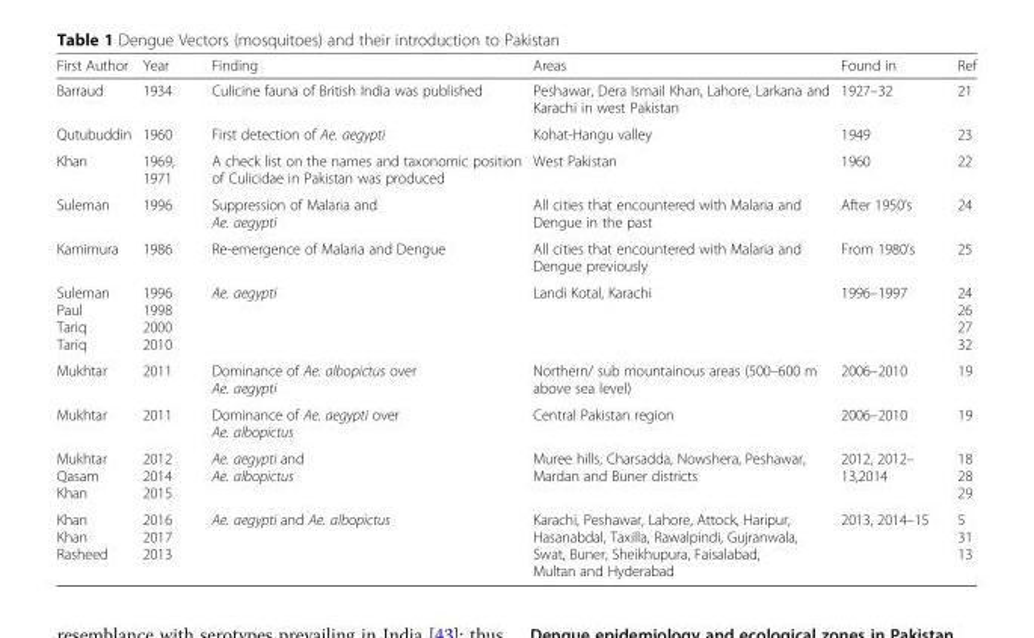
<table><thead><tr><td>First Author</td><td>Year</td><td>Finding</td><td>Areas</td><td>Found in</td><td>Ref</td></tr></thead><tbody><tr><td>Barraud</td><td>1934</td><td>Culicine fauna of British India was published</td><td>Peshawar, Dera Ismail Khan, Lahore, Larkana and Karachi in west Pakistan</td><td>1927–32</td><td>21</td></tr><tr><td>Qutubuddin</td><td>1960</td><td>First detection of Ae. aegypti</td><td>Kohat-Hangu valley</td><td>1949</td><td>23</td></tr><tr><td>Khan</td><td>1969, 1971</td><td>A check list on the names and taxonomic position of Culicidae in Pakistan was produced</td><td>West Pakistan</td><td>1960</td><td>22</td></tr><tr><td>Suleman</td><td>1996</td><td>Suppression of Malaria and Ae. aegypti</td><td>All cities that encountered with Malaria and Dengue in the past</td><td>After 1950’s</td><td>24</td></tr><tr><td>Kamimura</td><td>1986</td><td>Re-emergence of Malaria and Dengue</td><td>All cities that encountered with Malaria and Dengue previously</td><td>From 1980’s</td><td>25</td></tr><tr><td>Suleman Paul Tariq Tariq</td><td>1996 1998 2000 2010</td><td>Ae. aegypti</td><td>Landi Kotal, Karachi</td><td>1996–1997</td><td>24 26 27 32</td></tr><tr><td>Mukhtar</td><td>2011</td><td>Dominance of Ae. albopictus over Ae. aegypti</td><td>Northern/ sub mountainous areas (500–600 m above sea level)</td><td>2006–2010</td><td>19</td></tr><tr><td>Mukhtar</td><td>2011</td><td>Dominance of Ae. aegypti over Ae. albopictus</td><td>Central Pakistan region</td><td>2006–2010</td><td>19</td></tr><tr><td>Mukhtar Qasam Khan</td><td>2012 2014 2015</td><td>Ae. aegypti and Ae. albopictus</td><td>Muree hills, Charsadda, Nowshera, Peshawar, Mardan and Buner districts</td><td>2012, 2012– 13,2014</td><td>18 28 29</td></tr><tr><td>Khan Khan Rasheed</td><td>2016 2017 2013</td><td>Ae. aegypti and Ae. albopictus</td><td>Karachi, Peshawar, Lahore, Attock, Haripur, Hasanabdal, Taxilla, Rawalpindi, Gujranwala, Swat, Buner, Sheikhupura, Faisalabad, Multan and Hyderabad</td><td>2013, 2014–15</td><td>5 31 13</td></tr></tbody></table>